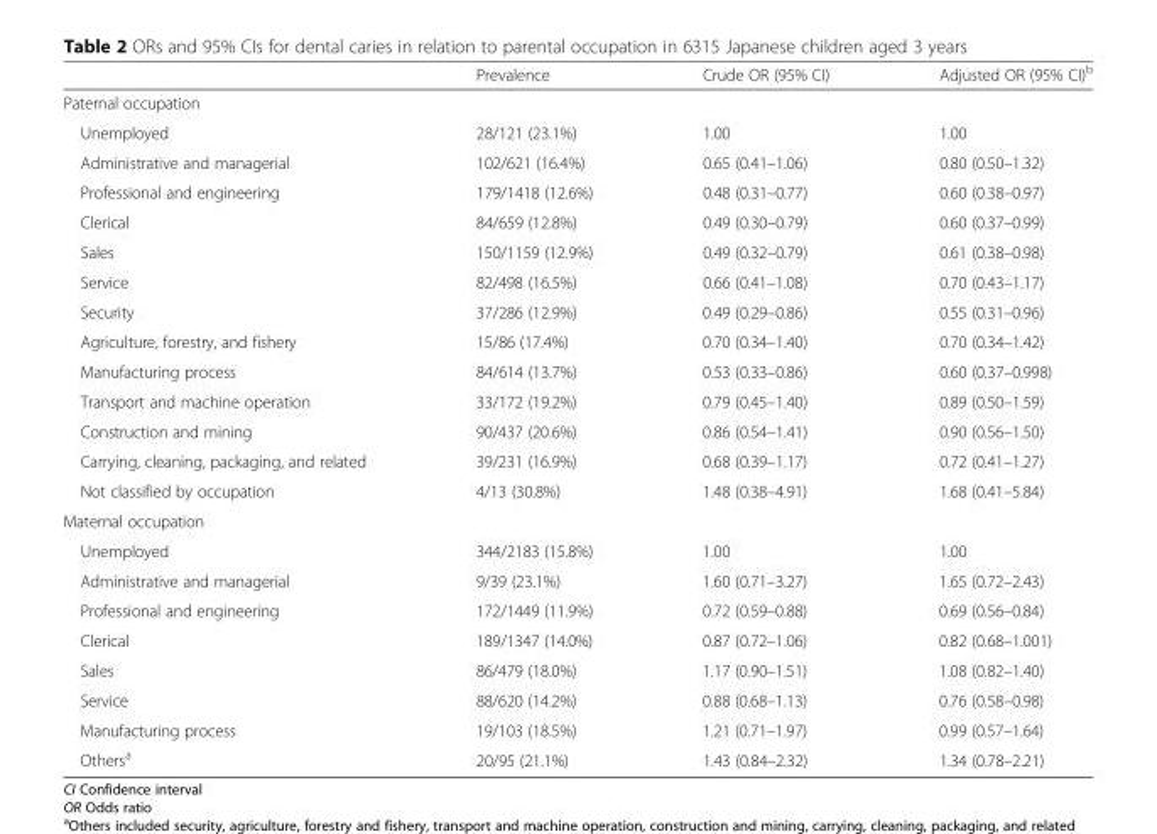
<table><thead><tr><td></td><td>Prevalence</td><td>Crude OR (95% CI)</td><td>Adjusted OR (95% CI)<sup>b</sup></td></tr></thead><tbody><tr><td colspan="4">Paternal occupation</td></tr><tr><td>Unemployed</td><td>28/121 (23.1%)</td><td>1.00</td><td>1.00</td></tr><tr><td>Administrative and managerial</td><td>102/621 (16.4%)</td><td>0.65 (0.41–1.06)</td><td>0.80 (0.50–1.32)</td></tr><tr><td>Professional and engineering</td><td>179/1418 (12.6%)</td><td>0.48 (0.31–0.77)</td><td>0.60 (0.38–0.97)</td></tr><tr><td>Clerical</td><td>84/659 (12.8%)</td><td>0.49 (0.30–0.79)</td><td>0.60 (0.37–0.99)</td></tr><tr><td>Sales</td><td>150/1159 (12.9%)</td><td>0.49 (0.32–0.79)</td><td>0.61 (0.38–0.98)</td></tr><tr><td>Service</td><td>82/498 (16.5%)</td><td>0.66 (0.41–1.08)</td><td>0.70 (0.43–1.17)</td></tr><tr><td>Security</td><td>37/286 (12.9%)</td><td>0.49 (0.29–0.86)</td><td>0.55 (0.31–0.96)</td></tr><tr><td>Agriculture, forestry, and fishery</td><td>15/86 (17.4%)</td><td>0.70 (0.34–1.40)</td><td>0.70 (0.34–1.42)</td></tr><tr><td>Manufacturing process</td><td>84/614 (13.7%)</td><td>0.53 (0.33–0.86)</td><td>0.60 (0.37–0.998)</td></tr><tr><td>Transport and machine operation</td><td>33/172 (19.2%)</td><td>0.79 (0.45–1.40)</td><td>0.89 (0.50–1.59)</td></tr><tr><td>Construction and mining</td><td>90/437 (20.6%)</td><td>0.86 (0.54–1.41)</td><td>0.90 (0.56–1.50)</td></tr><tr><td>Carrying, cleaning, packaging, and related</td><td>39/231 (16.9%)</td><td>0.68 (0.39–1.17)</td><td>0.72 (0.41–1.27)</td></tr><tr><td>Not classified by occupation</td><td>4/13 (30.8%)</td><td>1.48 (0.38–4.91)</td><td>1.68 (0.41–5.84)</td></tr><tr><td colspan="4">Maternal occupation</td></tr><tr><td>Unemployed</td><td>344/2183 (15.8%)</td><td>1.00</td><td>1.00</td></tr><tr><td>Administrative and managerial</td><td>9/39 (23.1%)</td><td>1.60 (0.71–3.27)</td><td>1.65 (0.72–2.43)</td></tr><tr><td>Professional and engineering</td><td>172/1449 (11.9%)</td><td>0.72 (0.59–0.88)</td><td>0.69 (0.56–0.84)</td></tr><tr><td>Clerical</td><td>189/1347 (14.0%)</td><td>0.87 (0.72–1.06)</td><td>0.82 (0.68–1.001)</td></tr><tr><td>Sales</td><td>86/479 (18.0%)</td><td>1.17 (0.90–1.51)</td><td>1.08 (0.82–1.40)</td></tr><tr><td>Service</td><td>88/620 (14.2%)</td><td>0.88 (0.68–1.13)</td><td>0.76 (0.58–0.98)</td></tr><tr><td>Manufacturing process</td><td>19/103 (18.5%)</td><td>1.21 (0.71–1.97)</td><td>0.99 (0.57–1.64)</td></tr><tr><td>Others<sup>a</sup></td><td>20/95 (21.1%)</td><td>1.43 (0.84–2.32)</td><td>1.34 (0.78–2.21)</td></tr></tbody></table>